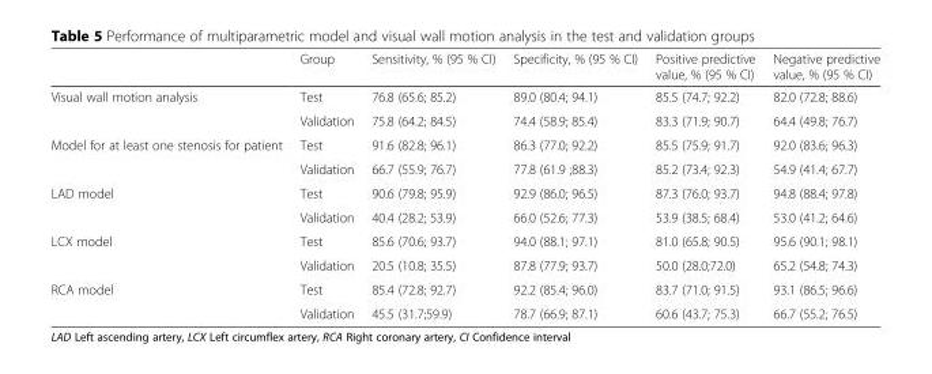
<table><thead><tr><td></td><td>Group</td><td>Sensitivity, % (95 % CI)</td><td>Specificity, % (95 % CI)</td><td>Positive predictive value, % (95 % CI)</td><td>Negative predictive value, % (95 % CI)</td></tr></thead><tbody><tr><td rowspan="2">Visual wall motion analysis</td><td>Test</td><td>76.8 (65.6; 85.2)</td><td>89.0 (80.4; 94.1)</td><td>85.5 (74.7; 92.2)</td><td>82.0 (72.8; 88.6)</td></tr><tr><td>Validation</td><td>75.8 (64.2; 84.5)</td><td>74.4 (58.9; 85.4)</td><td>83.3 (71.9; 90.7)</td><td>64.4 (49.8; 76.7)</td></tr><tr><td rowspan="2">Model for at least one stenosis for patient</td><td>Test</td><td>91.6 (82.8; 96.1)</td><td>86.3 (77.0; 92.2)</td><td>85.5 (75.9; 91.7)</td><td>92.0 (83.6; 96.3)</td></tr><tr><td>Validation</td><td>66.7 (55.9; 76.7)</td><td>77.8 (61.9 ;88.3)</td><td>85.2 (73.4; 92.3)</td><td>54.9 (41.4; 67.7)</td></tr><tr><td rowspan="2">LAD model</td><td>Test</td><td>90.6 (79.8; 95.9)</td><td>92.9 (86.0; 96.5)</td><td>87.3 (76.0; 93.7)</td><td>94.8 (88.4; 97.8)</td></tr><tr><td>Validation</td><td>40.4 (28.2; 53.9)</td><td>66.0 (52.6; 77.3)</td><td>53.9 (38.5; 68.4)</td><td>53.0 (41.2; 64.6)</td></tr><tr><td rowspan="2">LCX model</td><td>Test</td><td>85.6 (70.6; 93.7)</td><td>94.0 (88.1; 97.1)</td><td>81.0 (65.8; 90.5)</td><td>95.6 (90.1; 98.1)</td></tr><tr><td>Validation</td><td>20.5 (10.8; 35.5)</td><td>87.8 (77.9; 93.7)</td><td>50.0 (28.0;72.0)</td><td>65.2 (54.8; 74.3)</td></tr><tr><td rowspan="2">RCA model</td><td>Test</td><td>85.4 (72.8; 92.7)</td><td>92.2 (85.4; 96.0)</td><td>83.7 (71.0; 91.5)</td><td>93.1 (86.5; 96.6)</td></tr><tr><td>Validation</td><td>45.5 (31.7;59.9)</td><td>78.7 (66.9; 87.1)</td><td>60.6 (43.7; 75.3)</td><td>66.7 (55.2; 76.5)</td></tr></tbody></table>